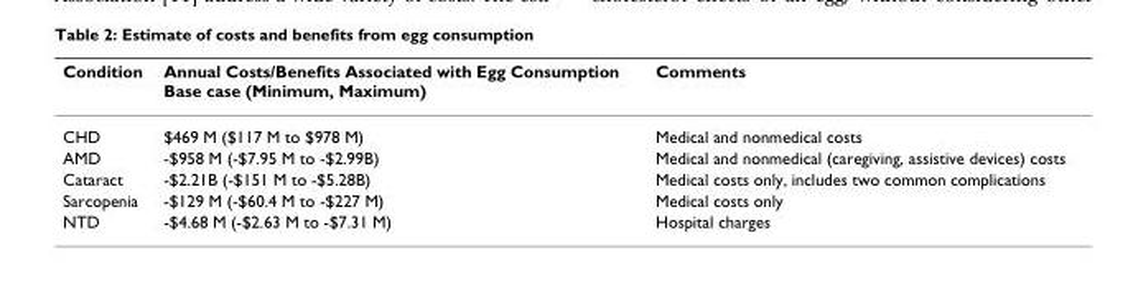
<table><thead><tr><td>Condition</td><td>Annual Costs/Benefits Associated with Egg Consumption Base case (Minimum, Maximum)</td><td>Comments</td></tr></thead><tbody><tr><td>CHD</td><td>$469 M ($117 M to $978 M)</td><td>Medical and nonmedical costs</td></tr><tr><td>AMD</td><td>-$958 M (-$7.95 M to -$2.99B)</td><td>Medical and nonmedical (caregiving, assistive devices) costs</td></tr><tr><td>Cataract</td><td>-$2.21B (-$151 M to -$5.28B)</td><td>Medical costs only, includes two common complications</td></tr><tr><td>Sarcopenia</td><td>-$129 M (-$60.4 M to -$227 M)</td><td>Medical costs only</td></tr><tr><td>NTD</td><td>-$4.68 M (-$2.63 M to -$7.31 M)</td><td>Hospital charges</td></tr></tbody></table>